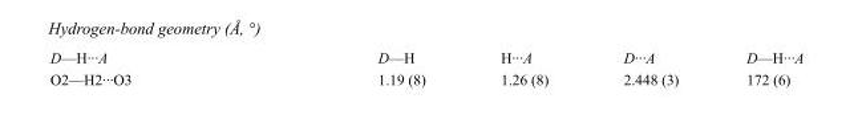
<table><tbody><tr><td>D—H···A</td><td>D—H</td><td>H···A</td><td>D···A</td><td>D—H···A</td></tr><tr><td>O2—H2···O3</td><td>1.19 (8)</td><td>1.26 (8)</td><td>2.448 (3)</td><td>172 (6)</td></tr></tbody></table>